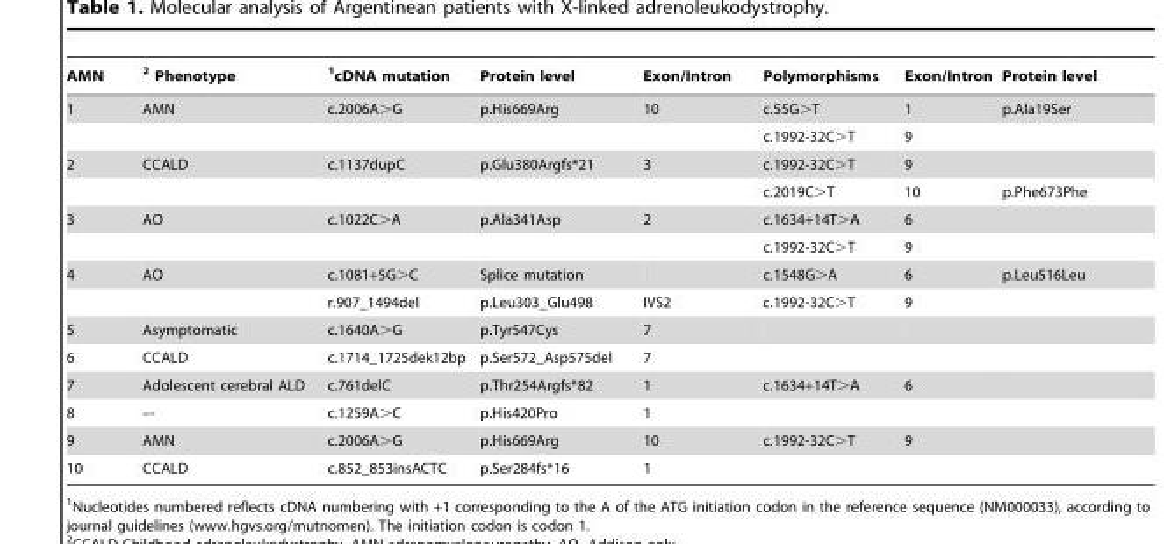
<table><thead><tr><td>AMN</td><td>2 Phenotype</td><td>1cDNA mutation</td><td>Protein level</td><td>Exon/Intron</td><td>Polymorphisms</td><td>Exon/Intron</td><td>Protein level</td></tr></thead><tbody><tr><td rowspan="2">1</td><td>AMN</td><td>c.2006A&gt;G</td><td>p.His669Arg</td><td>10</td><td>c.55G&gt;T</td><td>1</td><td>p.Ala19Ser</td></tr><tr><td></td><td></td><td></td><td></td><td>c.1992-32C&gt;T</td><td>9</td><td></td></tr><tr><td rowspan="2">2</td><td>CCALD</td><td>c.1137dupC</td><td>p.Glu380Argfs*21</td><td>3</td><td>c.1992-32C&gt;T</td><td>9</td><td></td></tr><tr><td></td><td></td><td></td><td></td><td>c.2019C&gt;T</td><td>10</td><td>p.Phe673Phe</td></tr><tr><td rowspan="2">3</td><td>AO</td><td>c.1022C&gt;A</td><td>p.Ala341Asp</td><td>2</td><td>c.1634+14T&gt;A</td><td>6</td><td></td></tr><tr><td></td><td></td><td></td><td></td><td>c.1992-32C&gt;T</td><td>9</td><td></td></tr><tr><td rowspan="2">4</td><td>AO</td><td>c.1081+5G&gt;C</td><td>Splice mutation</td><td></td><td>c.1548G&gt;A</td><td>6</td><td>p.Leu516Leu</td></tr><tr><td></td><td>r.907_1494del</td><td>p.Leu303_Glu498</td><td>IVS2</td><td>c.1992-32C&gt;T</td><td>9</td><td></td></tr><tr><td>5</td><td>Asymptomatic</td><td>c.1640A&gt;G</td><td>p.Tyr547Cys</td><td>7</td><td></td><td></td><td></td></tr><tr><td>6</td><td>CCALD</td><td>c.1714_1725dek12bp</td><td>p.Ser572_Asp575del</td><td>7</td><td></td><td></td><td></td></tr><tr><td>7</td><td>Adolescent cerebral ALD</td><td>c.761delC</td><td>p.Thr254Argfs*82</td><td>1</td><td>c.1634+14T&gt;A</td><td>6</td><td></td></tr><tr><td>8</td><td>–-</td><td>c.1259A&gt;C</td><td>p.His420Pro</td><td>1</td><td></td><td></td><td></td></tr><tr><td>9</td><td>AMN</td><td>c.2006A&gt;G</td><td>p.His669Arg</td><td>10</td><td>c.1992-32C&gt;T</td><td>9</td><td></td></tr><tr><td>10</td><td>CCALD</td><td>c.852_853insACTC</td><td>p.Ser284fs*16</td><td>1</td><td></td><td></td><td></td></tr></tbody></table>